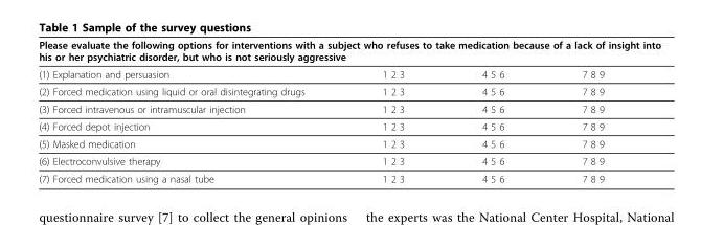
<table><thead><tr><td colspan="4">Please evaluate the following options for interventions with a subject who refuses to take medication because of a lack of insight into his or her psychiatric disorder, but who is not seriously aggressive</td></tr><tr><td>(1) Explanation and persuasion</td><td>1 2 3</td><td>4 5 6</td><td>7 8 9</td></tr></thead><tbody><tr><td>(2) Forced medication using liquid or oral disintegrating drugs</td><td>1 2 3</td><td>4 5 6</td><td>7 8 9</td></tr><tr><td>(3) Forced intravenous or intramuscular injection</td><td>1 2 3</td><td>4 5 6</td><td>7 8 9</td></tr><tr><td>(4) Forced depot injection</td><td>1 2 3</td><td>4 5 6</td><td>7 8 9</td></tr><tr><td>(5) Masked medication</td><td>1 2 3</td><td>4 5 6</td><td>7 8 9</td></tr><tr><td>(6) Electroconvulsive therapy</td><td>1 2 3</td><td>4 5 6</td><td>7 8 9</td></tr><tr><td>(7) Forced medication using a nasal tube</td><td>1 2 3</td><td>4 5 6</td><td>7 8 9</td></tr></tbody></table>